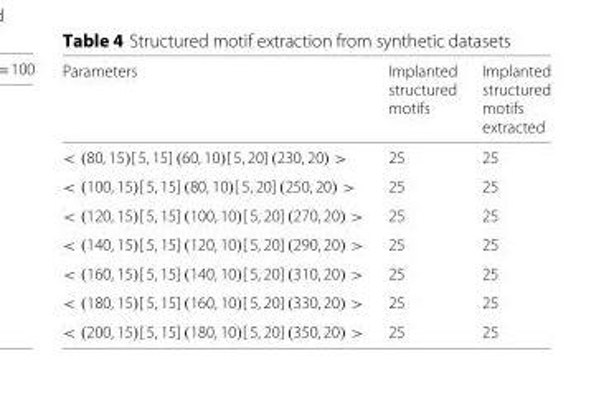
<table><thead><tr><td rowspan="4">Parameters</td><td rowspan="4">Implanted structured motifs</td><td rowspan="4">Implanted structured motifs extracted</td></tr><tr></tr><tr></tr><tr></tr></thead><tbody><tr><td>&lt; (80, 15)[ 5, 15] (60, 10)[ 5, 20] (230, 20) &gt;</td><td>25</td><td>25</td></tr><tr><td>&lt; (100, 15)[ 5, 15] (80, 10)[ 5, 20] (250, 20) &gt;</td><td>25</td><td>25</td></tr><tr><td>&lt; (120, 15)[ 5, 15] (100, 10)[ 5, 20] (270, 20) &gt;</td><td>25</td><td>25</td></tr><tr><td>&lt; (140, 15)[ 5, 15] (120, 10)[ 5, 20] (290, 20) &gt;</td><td>25</td><td>25</td></tr><tr><td>&lt; (160, 15)[ 5, 15] (140, 10)[ 5, 20] (310, 20) &gt;</td><td>25</td><td>25</td></tr><tr><td>&lt; (180, 15)[ 5, 15] (160, 10)[ 5, 20] (330, 20) &gt;</td><td>25</td><td>25</td></tr><tr><td>&lt; (200, 15)[ 5, 15] (180, 10)[ 5, 20] (350, 20) &gt;</td><td>25</td><td>25</td></tr></tbody></table>